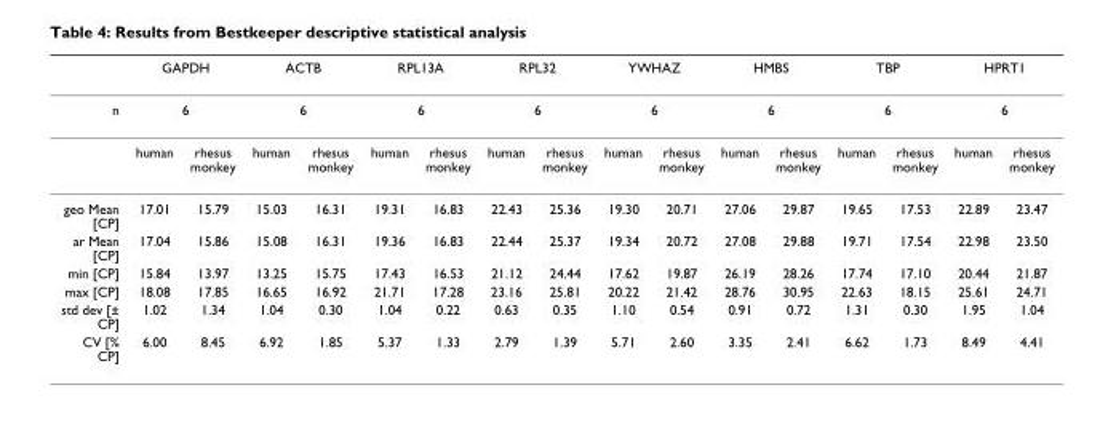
<table><thead><tr><td rowspan="3">n</td><td rowspan="2" colspan="2">GAPDH 6</td><td rowspan="2" colspan="2">ACTB 6</td><td rowspan="2" colspan="2">RPL13A 6</td><td rowspan="2" colspan="2">RPL32 6</td><td rowspan="2" colspan="2">YWHAZ 6</td><td rowspan="2" colspan="2">HMBS 6</td><td rowspan="2" colspan="2">TBP 6</td><td rowspan="2" colspan="2">HPRT1 6</td></tr><tr></tr><tr><td>human</td><td>rhesus monkey</td><td>human</td><td>rhesus monkey</td><td>human</td><td>rhesus monkey</td><td>human</td><td>rhesus monkey</td><td>human</td><td>rhesus monkey</td><td>human</td><td>rhesus monkey</td><td>human</td><td>rhesus monkey</td><td>human</td><td>rhesus monkey</td></tr></thead><tbody><tr><td>geo Mean [CP]</td><td>17.01</td><td>15.79</td><td>15.03</td><td>16.31</td><td>19.31</td><td>16.83</td><td>22.43</td><td>25.36</td><td>19.30</td><td>20.71</td><td>27.06</td><td>29.87</td><td>19.65</td><td>17.53</td><td>22.89</td><td>23.47</td></tr><tr><td>ar Mean [CP]</td><td>17.04</td><td>15.86</td><td>15.08</td><td>16.31</td><td>19.36</td><td>16.83</td><td>22.44</td><td>25.37</td><td>19.34</td><td>20.72</td><td>27.08</td><td>29.88</td><td>19.71</td><td>17.54</td><td>22.98</td><td>23.50</td></tr><tr><td>min [CP]</td><td>15.84</td><td>13.97</td><td>13.25</td><td>15.75</td><td>17.43</td><td>16.53</td><td>21.12</td><td>24.44</td><td>17.62</td><td>19.87</td><td>26.19</td><td>28.26</td><td>17.74</td><td>17.10</td><td>20.44</td><td>21.87</td></tr><tr><td>max [CP]</td><td>18.08</td><td>17.85</td><td>16.65</td><td>16.92</td><td>21.71</td><td>17.28</td><td>23.16</td><td>25.81</td><td>20.22</td><td>21.42</td><td>28.76</td><td>30.95</td><td>22.63</td><td>18.15</td><td>25.61</td><td>24.71</td></tr><tr><td>std dev [± CP]</td><td>1.02</td><td>1.34</td><td>1.04</td><td>0.30</td><td>1.04</td><td>0.22</td><td>0.63</td><td>0.35</td><td>1.10</td><td>0.54</td><td>0.91</td><td>0.72</td><td>1.31</td><td>0.30</td><td>1.95</td><td>1.04</td></tr><tr><td>CV [% CP]</td><td>6.00</td><td>8.45</td><td>6.92</td><td>1.85</td><td>5.37</td><td>1.33</td><td>2.79</td><td>1.39</td><td>5.71</td><td>2.60</td><td>3.35</td><td>2.41</td><td>6.62</td><td>1.73</td><td>8.49</td><td>4.41</td></tr></tbody></table>